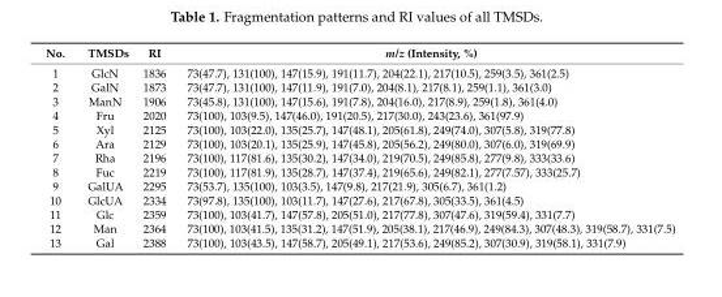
<table><thead><tr><td>No.</td><td>TMSDs</td><td>RI</td><td>m/z (Intensity, %)</td></tr></thead><tbody><tr><td>1</td><td>GlcN</td><td>1836</td><td>73(47.7), 131(100), 147(15.9), 191(11.7), 204(22.1), 217(10.5), 259(3.5), 361(2.5)</td></tr><tr><td>2</td><td>GalN</td><td>1873</td><td>73(47.7), 131(100), 147(11.9), 191(7.0), 204(8.1), 217(8.1), 259(1.1), 361(3.0)</td></tr><tr><td>3</td><td>ManN</td><td>1906</td><td>73(45.8), 131(100), 147(15.6), 191(7.8), 204(16.0), 217(8.9), 259(1.8), 361(4.0)</td></tr><tr><td>4</td><td>Fru</td><td>2020</td><td>73(100), 103(9.5), 147(46.0), 191(20.5), 217(30.0), 243(23.6), 361(97.9)</td></tr><tr><td>5</td><td>Xyl</td><td>2125</td><td>73(100), 103(22.0), 135(25.7), 147(48.1), 205(61.8), 249(74.0), 307(5.8), 319(77.8)</td></tr><tr><td>6</td><td>Ara</td><td>2129</td><td>73(100), 103(20.1), 135(25.9), 147(45.8), 205(56.2), 249(80.0), 307(6.0), 319(69.9)</td></tr><tr><td>7</td><td>Rha</td><td>2196</td><td>73(100), 117(81.6), 135(30.2), 147(34.0), 219(70.5), 249(85.8), 277(9.8), 333(33.6)</td></tr><tr><td>8</td><td>Fuc</td><td>2219</td><td>73(100), 117(81.9), 135(28.7), 147(37.4), 219(65.6), 249(82.1), 277(7.57), 333(25.7)</td></tr><tr><td>9</td><td>GalUA</td><td>2295</td><td>73(53.7), 135(100), 103(3.5), 147(9.8), 217(21.9), 305(6.7), 361(1.2)</td></tr><tr><td>10</td><td>GlcUA</td><td>2334</td><td>73(97.8), 135(100), 103(11.7), 147(27.6), 217(67.8), 305(33.5), 361(4.5)</td></tr><tr><td>11</td><td>Glc</td><td>2359</td><td>73(100), 103(41.7), 147(57.8), 205(51.0), 217(77.8), 307(47.6), 319(59.4), 331(7.7)</td></tr><tr><td>12</td><td>Man</td><td>2364</td><td>73(100), 103(41.5), 135(31.2), 147(51.9), 205(38.1), 217(46.9), 249(84.3), 307(48.3), 319(58.7), 331(7.5)</td></tr><tr><td>13</td><td>Gal</td><td>2388</td><td>73(100), 103(43.5), 147(58.7), 205(49.1), 217(53.6), 249(85.2), 307(30.9), 319(58.1), 331(7.9)</td></tr></tbody></table>